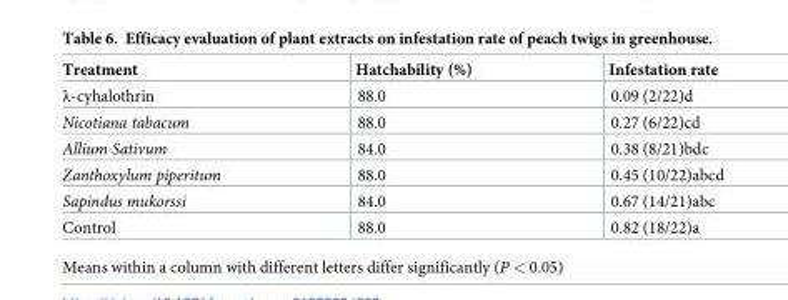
<table><thead><tr><td>Treatment</td><td>Hatchability (%)</td><td>Infestation rate</td></tr></thead><tbody><tr><td>λ-cyhalothrin</td><td>88.0</td><td>0.09 (2/22)d</td></tr><tr><td>Nicotiana tabacum</td><td>88.0</td><td>0.27 (6/22)cd</td></tr><tr><td>Allium Sativum</td><td>84.0</td><td>0.38 (8/21)bdc</td></tr><tr><td>Zanthoxylum piperitum</td><td>88.0</td><td>0.45 (10/22)abcd</td></tr><tr><td>Sapindus mukorssi</td><td>84.0</td><td>0.67 (14/21)abc</td></tr><tr><td>Control</td><td>88.0</td><td>0.82 (18/22)a</td></tr></tbody></table>